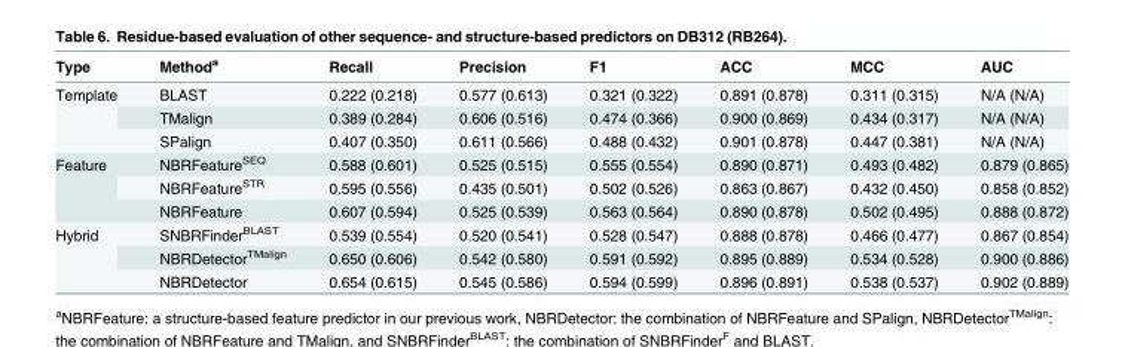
<table><thead><tr><td>Type</td><td>Method<sup>a</sup></td><td>Recall</td><td>Precision</td><td>F1</td><td>ACC</td><td>MCC</td><td>AUC</td></tr></thead><tbody><tr><td rowspan="3">Template</td><td>BLAST</td><td>0.222 (0.218)</td><td>0.577 (0.613)</td><td>0.321 (0.322)</td><td>0.891 (0.878)</td><td>0.311 (0.315)</td><td>N/A (N/A)</td></tr><tr><td>TMalign</td><td>0.389 (0.284)</td><td>0.606 (0.516)</td><td>0.474 (0.366)</td><td>0.900 (0.869)</td><td>0.434 (0.317)</td><td>N/A (N/A)</td></tr><tr><td>SPalign</td><td>0.407 (0.350)</td><td>0.611 (0.566)</td><td>0.488 (0.432)</td><td>0.901 (0.878)</td><td>0.447 (0.381)</td><td>N/A (N/A)</td></tr><tr><td rowspan="3">Feature</td><td>NBRFeature<sup>SEQ</sup></td><td>0.588 (0.601)</td><td>0.525 (0.515)</td><td>0.555 (0.554)</td><td>0.890 (0.871)</td><td>0.493 (0.482)</td><td>0.879 (0.865)</td></tr><tr><td>NBRFeature<sup>STR</sup></td><td>0.595 (0.556)</td><td>0.435 (0.501)</td><td>0.502 (0.526)</td><td>0.863 (0.867)</td><td>0.432 (0.450)</td><td>0.858 (0.852)</td></tr><tr><td>NBRFeature</td><td>0.607 (0.594)</td><td>0.525 (0.539)</td><td>0.563 (0.564)</td><td>0.890 (0.878)</td><td>0.502 (0.495)</td><td>0.888 (0.872)</td></tr><tr><td rowspan="3">Hybrid</td><td>SNBRFinder<sup>BLAST</sup></td><td>0.539 (0.554)</td><td>0.520 (0.541)</td><td>0.528 (0.547)</td><td>0.888 (0.878)</td><td>0.466 (0.477)</td><td>0.867 (0.854)</td></tr><tr><td>NBRDetector<sup>TMalign</sup></td><td>0.650 (0.606)</td><td>0.542 (0.580)</td><td>0.591 (0.592)</td><td>0.895 (0.889)</td><td>0.534 (0.528)</td><td>0.900 (0.886)</td></tr><tr><td>NBRDetector</td><td>0.654 (0.615)</td><td>0.545 (0.586)</td><td>0.594 (0.599)</td><td>0.896 (0.891)</td><td>0.538 (0.537)</td><td>0.902 (0.889)</td></tr></tbody></table>